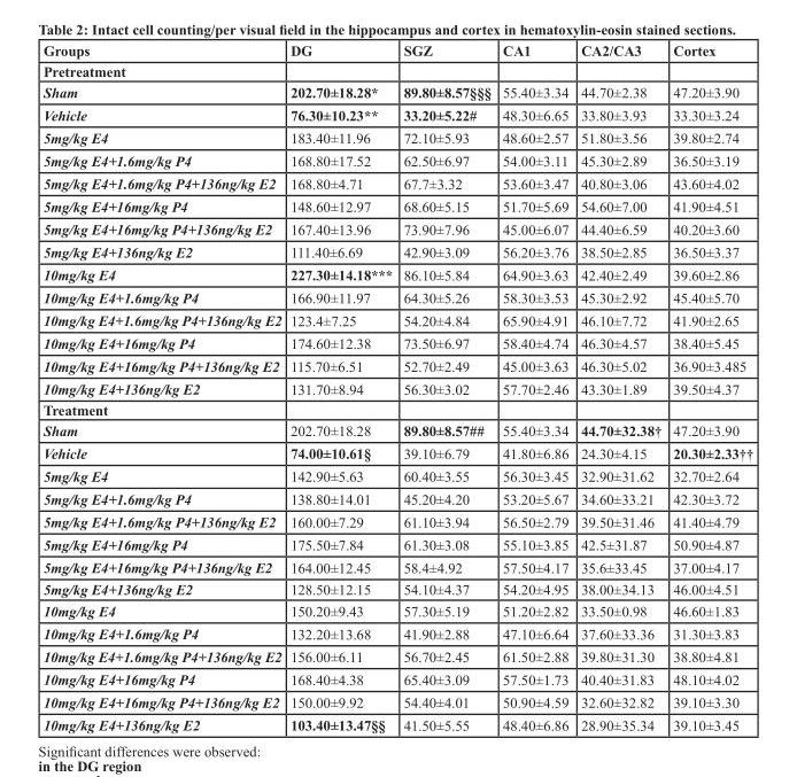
<table><thead><tr><td>Groups</td><td>dG</td><td>sGZ</td><td>cA1</td><td>cA2/cA3</td><td>cortex</td></tr></thead><tbody><tr><td colspan="6">Pretreatment</td></tr><tr><td>Sham</td><td>202.70±18.28*</td><td>89.80±8.57§§§</td><td>55.40±3.34</td><td>44.70±2.38</td><td>47.20±3.90</td></tr><tr><td>Vehicle</td><td>76.30±10.23**</td><td>33.20±5.22#</td><td>48.30±6.65</td><td>33.80±3.93</td><td>33.30±3.24</td></tr><tr><td>5mg/kg E4</td><td>183.40±11.96</td><td>72.10±5.93</td><td>48.60±2.57</td><td>51.80±3.56</td><td>39.80±2.74</td></tr><tr><td>5mg/kg E4+1.6mg/kg P4</td><td>168.80±17.52</td><td>62.50±6.97</td><td>54.00±3.11</td><td>45.30±2.89</td><td>36.50±3.19</td></tr><tr><td>5mg/kg E4+1.6mg/kg P4+136ng/kg E2</td><td>168.80±4.71</td><td>67.7±3.32</td><td>53.60±3.47</td><td>40.80±3.06</td><td>43.60±4.02</td></tr><tr><td>5mg/kg E4+16mg/kg P4</td><td>148.60±12.97</td><td>68.60±5.15</td><td>51.70±5.69</td><td>54.60±7.00</td><td>41.90±4.51</td></tr><tr><td>5mg/kg E4+16mg/kg P4+136ng/kg E2</td><td>167.40±13.96</td><td>73.90±7.96</td><td>45.00±6.07</td><td>44.40±6.59</td><td>40.20±3.60</td></tr><tr><td>5mg/kg E4+136ng/kg E2</td><td>111.40±6.69</td><td>42.90±3.09</td><td>56.20±3.76</td><td>38.50±2.85</td><td>36.50±3.37</td></tr><tr><td>10mg/kg E4</td><td>227.30±14.18***</td><td>86.10±5.84</td><td>64.90±3.63</td><td>42.40±2.49</td><td>39.60±2.86</td></tr><tr><td>10mg/kg E4+1.6mg/kg P4</td><td>166.90±11.97</td><td>64.30±5.26</td><td>58.30±3.53</td><td>45.30±2.92</td><td>45.40±5.70</td></tr><tr><td>10mg/kg E4+1.6mg/kg P4+136ng/kg E2</td><td>123.4±7.25</td><td>54.20±4.84</td><td>65.90±4.91</td><td>46.10±7.72</td><td>41.90±2.65</td></tr><tr><td>10mg/kg E4+16mg/kg P4</td><td>174.60±12.38</td><td>73.50±6.97</td><td>58.40±4.74</td><td>46.30±4.57</td><td>38.40±5.45</td></tr><tr><td>10mg/kg E4+16mg/kg P4+136ng/kg E2</td><td>115.70±6.51</td><td>52.70±2.49</td><td>45.00±3.63</td><td>46.30±5.02</td><td>36.90±3.485</td></tr><tr><td>10mg/kg E4+136ng/kg E2</td><td>131.70±8.94</td><td>56.30±3.02</td><td>57.70±2.46</td><td>43.30±1.89</td><td>39.50±4.37</td></tr><tr><td colspan="6">treatment</td></tr><tr><td>Sham</td><td>202.70±18.28</td><td>89.80±8.57##</td><td>55.40±3.34</td><td>44.70±32.38†</td><td>47.20±3.90</td></tr><tr><td>Vehicle</td><td>74.00±10.61§</td><td>39.10±6.79</td><td>41.80±6.86</td><td>24.30±4.15</td><td>20.30±2.33††</td></tr><tr><td>5mg/kg E4</td><td>142.90±5.63</td><td>60.40±3.55</td><td>56.30±3.45</td><td>32.90±31.62</td><td>32.70±2.64</td></tr><tr><td>5mg/kg E4+1.6mg/kg P4</td><td>138.80±14.01</td><td>45.20±4.20</td><td>53.20±5.67</td><td>34.60±33.21</td><td>42.30±3.72</td></tr><tr><td>5mg/kg E4+1.6mg/kg P4+136ng/kg E2</td><td>160.00±7.29</td><td>61.10±3.94</td><td>56.50±2.79</td><td>39.50±31.46</td><td>41.40±4.79</td></tr><tr><td>5mg/kg E4+16mg/kg P4</td><td>175.50±7.84</td><td>61.30±3.08</td><td>55.10±3.85</td><td>42.5±31.87</td><td>50.90±4.87</td></tr><tr><td>5mg/kg E4+16mg/kg P4+136ng/kg E2</td><td>164.00±12.45</td><td>58.4±4.92</td><td>57.50±4.17</td><td>35.6±33.45</td><td>37.00±4.17</td></tr><tr><td>5mg/kg E4+136ng/kg E2</td><td>128.50±12.15</td><td>54.10±4.37</td><td>54.20±4.95</td><td>38.00±34.13</td><td>46.00±4.51</td></tr><tr><td>10mg/kg E4</td><td>150.20±9.43</td><td>57.30±5.19</td><td>51.20±2.82</td><td>33.50±0.98</td><td>46.60±1.83</td></tr><tr><td>10mg/kg E4+1.6mg/kg P4</td><td>132.20±13.68</td><td>41.90±2.88</td><td>47.10±6.64</td><td>37.60±33.36</td><td>31.30±3.83</td></tr><tr><td>10mg/kg E4+1.6mg/kg P4+136ng/kg E2</td><td>156.00±6.11</td><td>56.70±2.45</td><td>61.50±2.88</td><td>39.80±31.30</td><td>38.80±4.81</td></tr><tr><td>10mg/kg E4+16mg/kg P4</td><td>168.40±4.38</td><td>65.40±3.09</td><td>57.50±1.73</td><td>40.40±31.83</td><td>48.10±4.02</td></tr><tr><td>10mg/kg E4+16mg/kg P4+136ng/kg E2</td><td>150.00±9.92</td><td>54.40±4.01</td><td>50.90±4.59</td><td>32.60±32.82</td><td>39.10±3.30</td></tr><tr><td>10mg/kg E4+136ng/kg E2</td><td>103.40±13.47§§</td><td>41.50±5.55</td><td>48.40±6.86</td><td>28.90±35.34</td><td>39.10±3.45</td></tr></tbody></table>